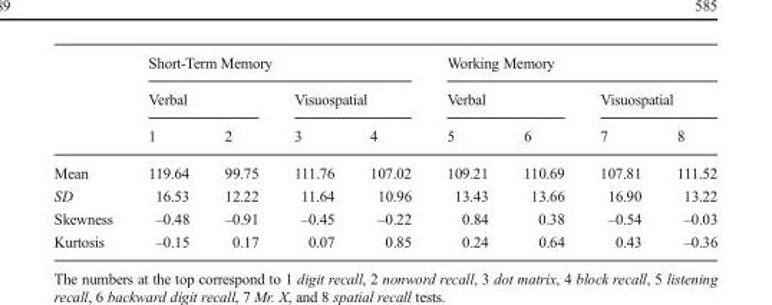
<table><thead><tr><td rowspan="3"></td><td colspan="4">Short-Term Memory</td><td colspan="4">Working Memory</td></tr><tr><td colspan="2">Verbal</td><td colspan="2">Visuospatial</td><td colspan="2">Verbal</td><td colspan="2">Visuospatial</td></tr><tr><td>1</td><td>2</td><td>3</td><td>4</td><td>5</td><td>6</td><td>7</td><td>8</td></tr></thead><tbody><tr><td>Mean</td><td>119.64</td><td>99.75</td><td>111.76</td><td>107.02</td><td>109.21</td><td>110.69</td><td>107.81</td><td>111.52</td></tr><tr><td>SD</td><td>16.53</td><td>12.22</td><td>11.64</td><td>10.96</td><td>13.43</td><td>13.66</td><td>16.90</td><td>13.22</td></tr><tr><td>Skewness</td><td>–0.48</td><td>–0.91</td><td>–0.45</td><td>–0.22</td><td>0.84</td><td>0.38</td><td>–0.54</td><td>–0.03</td></tr><tr><td>Kurtosis</td><td>–0.15</td><td>0.17</td><td>0.07</td><td>0.85</td><td>0.24</td><td>0.64</td><td>0.43</td><td>–0.36</td></tr></tbody></table>